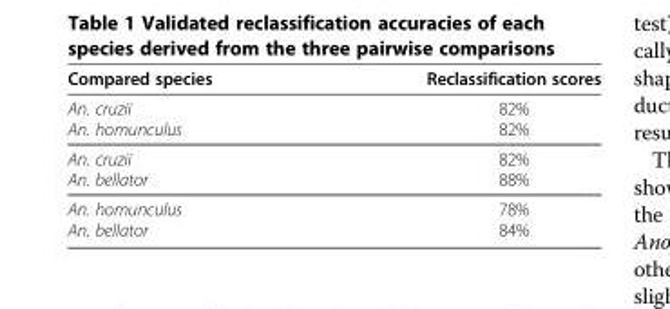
<table><thead><tr><td>Compared species</td><td>Reclassification scores</td></tr></thead><tbody><tr><td>An. cruzii</td><td>82%</td></tr><tr><td>An. homunculus</td><td>82%</td></tr><tr><td>An. cruzii</td><td>82%</td></tr><tr><td>An. bellator</td><td>88%</td></tr><tr><td>An. homunculus</td><td>78%</td></tr><tr><td>An. bellator</td><td>84%</td></tr></tbody></table>